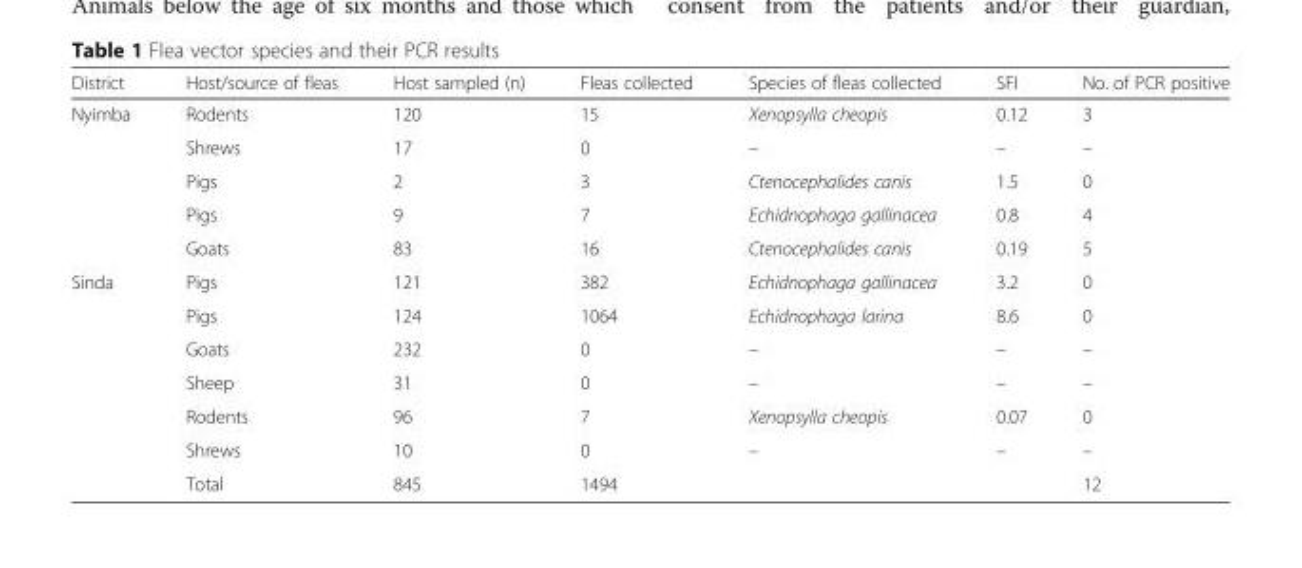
<table><thead><tr><td>District</td><td>Host/source of fleas</td><td>Host sampled (n)</td><td>Fleas collected</td><td>Species of fleas collected</td><td>SFI</td><td>No. of PCR positive</td></tr></thead><tbody><tr><td rowspan="5">Nyimba</td><td>Rodents</td><td>120</td><td>15</td><td>Xenopsylla cheopis</td><td>0.12</td><td>3</td></tr><tr><td>Shrews</td><td>17</td><td>0</td><td>–</td><td>–</td><td>–</td></tr><tr><td>Pigs</td><td>2</td><td>3</td><td>Ctenocephalides canis</td><td>1.5</td><td>0</td></tr><tr><td>Pigs</td><td>9</td><td>7</td><td>Echidnophaga gallinacea</td><td>0.8</td><td>4</td></tr><tr><td>Goats</td><td>83</td><td>16</td><td>Ctenocephalides canis</td><td>0.19</td><td>5</td></tr><tr><td rowspan="7">Sinda</td><td>Pigs</td><td>121</td><td>382</td><td>Echidnophaga gallinacea</td><td>3.2</td><td>0</td></tr><tr><td>Pigs</td><td>124</td><td>1064</td><td>Echidnophaga larina</td><td>8.6</td><td>0</td></tr><tr><td>Goats</td><td>232</td><td>0</td><td>–</td><td>–</td><td>–</td></tr><tr><td>Sheep</td><td>31</td><td>0</td><td>–</td><td>–</td><td>–</td></tr><tr><td>Rodents</td><td>96</td><td>7</td><td>Xenopsylla cheopis</td><td>0.07</td><td>0</td></tr><tr><td>Shrews</td><td>10</td><td>0</td><td>–</td><td>–</td><td>–</td></tr><tr><td>Total</td><td>845</td><td>1494</td><td></td><td></td><td>12</td></tr></tbody></table>